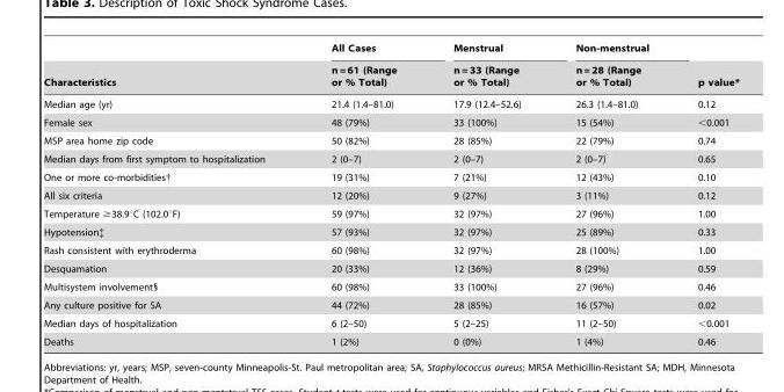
<table><thead><tr><td rowspan="2">Characteristics</td><td rowspan="2">All Cases n = 61 (Range or % Total)</td><td rowspan="2">Menstrual n = 33 (Range or % Total)</td><td rowspan="2">Non-menstrual n = 28 (Range or % Total)</td><td rowspan="2">p value*</td></tr><tr></tr></thead><tbody><tr><td>Median age (yr)</td><td>21.4 (1.4–81.0)</td><td>17.9 (12.4–52.6)</td><td>26.3 (1.4–81.0)</td><td>0.12</td></tr><tr><td>Female sex</td><td>48 (79%)</td><td>33 (100%)</td><td>15 (54%)</td><td>&lt;0.001</td></tr><tr><td>MSP area home zip code</td><td>50 (82%)</td><td>28 (85%)</td><td>22 (79%)</td><td>0.74</td></tr><tr><td>Median days from first symptom to hospitalization</td><td>2 (0–7)</td><td>2 (0–7)</td><td>2 (0–7)</td><td>0.65</td></tr><tr><td>One or more co-morbidities†</td><td>19 (31%)</td><td>7 (21%)</td><td>12 (43%)</td><td>0.10</td></tr><tr><td>All six criteria</td><td>12 (20%)</td><td>9 (27%)</td><td>3 (11%)</td><td>0.12</td></tr><tr><td>Temperature ≥38.9°C (102.0°F)</td><td>59 (97%)</td><td>32 (97%)</td><td>27 (96%)</td><td>1.00</td></tr><tr><td>Hypotension‡</td><td>57 (93%)</td><td>32 (97%)</td><td>25 (89%)</td><td>0.33</td></tr><tr><td>Rash consistent with erythroderma</td><td>60 (98%)</td><td>32 (97%)</td><td>28 (100%)</td><td>1.00</td></tr><tr><td>Desquamation</td><td>20 (33%)</td><td>12 (36%)</td><td>8 (29%)</td><td>0.59</td></tr><tr><td>Multisystem involvement§</td><td>60 (98%)</td><td>33 (100%)</td><td>27 (96%)</td><td>0.46</td></tr><tr><td>Any culture positive for SA</td><td>44 (72%)</td><td>28 (85%)</td><td>16 (57%)</td><td>0.02</td></tr><tr><td>Median days of hospitalization</td><td>6 (2–50)</td><td>5 (2–25)</td><td>11 (2–50)</td><td>&lt;0.001</td></tr><tr><td>Deaths</td><td>1 (2%)</td><td>0 (0%)</td><td>1 (4%)</td><td>0.46</td></tr></tbody></table>